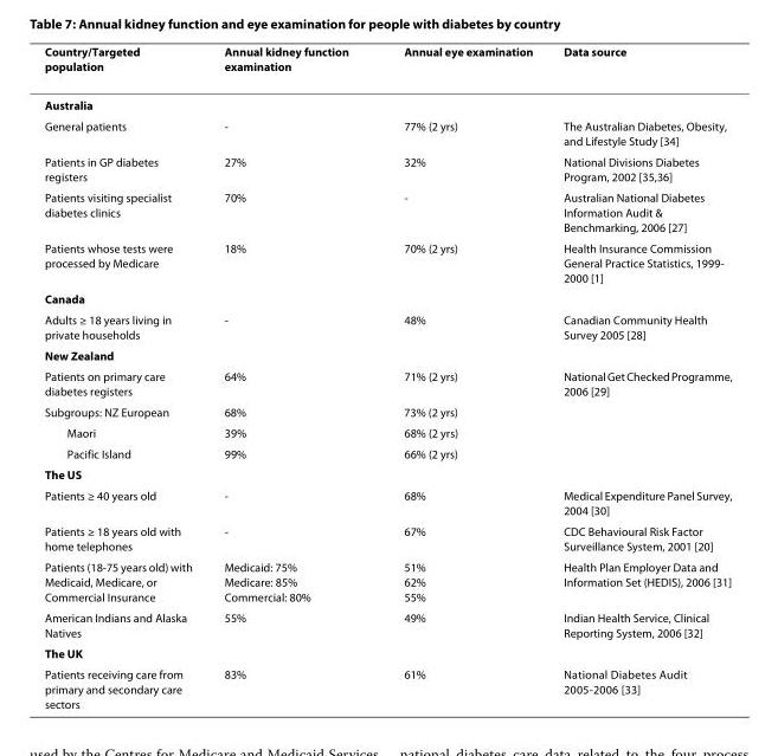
<table><thead><tr><td>Country/Targeted population</td><td>Annual kidney function examination</td><td>Annual eye examination</td><td>Data source</td></tr></thead><tbody><tr><td colspan="4">Australia</td></tr><tr><td>General patients</td><td>-</td><td>77% (2 yrs)</td><td>The Australian Diabetes, Obesity, and Lifestyle Study [34]</td></tr><tr><td>Patients in GP diabetes registers</td><td>27%</td><td>32%</td><td>National Divisions Diabetes Program, 2002 [35,36]</td></tr><tr><td>Patients visiting specialist diabetes clinics</td><td>70%</td><td>-</td><td>Australian National Diabetes Information Audit &amp; Benchmarking, 2006 [27]</td></tr><tr><td>Patients whose tests were processed by Medicare</td><td>18%</td><td>70% (2 yrs)</td><td>Health Insurance Commission General Practice Statistics, 1999- 2000 [1]</td></tr><tr><td colspan="4">Canada</td></tr><tr><td>Adults ≥ 18 years living in private households</td><td>-</td><td>48%</td><td>Canadian Community Health Survey 2005 [28]</td></tr><tr><td colspan="4">New Zealand</td></tr><tr><td>Patients on primary care diabetes registers</td><td>64%</td><td>71% (2 yrs)</td><td>National Get Checked Programme, 2006 [29]</td></tr><tr><td>Subgroups: NZ European</td><td>68%</td><td>73% (2 yrs)</td><td></td></tr><tr><td>Maori</td><td>39%</td><td>68% (2 yrs)</td><td></td></tr><tr><td>Pacific Island</td><td>99%</td><td>66% (2 yrs)</td><td></td></tr><tr><td colspan="4">The US</td></tr><tr><td>Patients ≥ 40 years old</td><td>-</td><td>68%</td><td>Medical Expenditure Panel Survey, 2004 [30]</td></tr><tr><td>Patients ≥ 18 years old with home telephones</td><td>-</td><td>67%</td><td>CDC Behavioural Risk Factor Surveillance System, 2001 [20]</td></tr><tr><td>Patients (18-75 years old) with Medicaid, Medicare, or Commercial Insurance</td><td>Medicaid: 75% Medicare: 85% Commercial: 80%</td><td>51% 62% 55%</td><td>Health Plan Employer Data and Information Set (HEDIS), 2006 [31]</td></tr><tr><td>American Indians and Alaska Natives</td><td>55%</td><td>49%</td><td>Indian Health Service, Clinical Reporting System, 2006 [32]</td></tr><tr><td colspan="4">The UK</td></tr><tr><td>Patients receiving care from primary and secondary care sectors</td><td>83%</td><td>61%</td><td>National Diabetes Audit 2005-2006 [33]</td></tr></tbody></table>